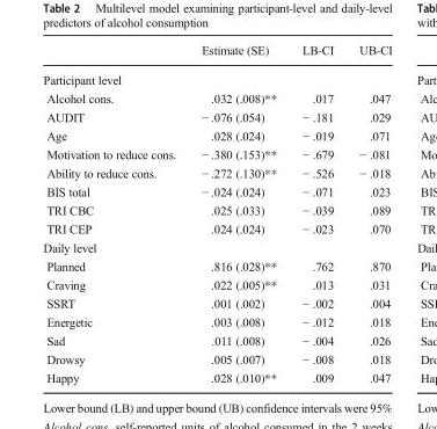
<table><thead><tr><td></td><td>Estimate (SE)</td><td>LB-CI</td><td>UB-CI</td></tr></thead><tbody><tr><td colspan="4">Participant level</td></tr><tr><td>Alcohol cons.</td><td>.032 (.008)**</td><td>.017</td><td>.047</td></tr><tr><td>AUDIT</td><td>− .076 (.054)</td><td>− .181</td><td>.029</td></tr><tr><td>Age</td><td>.028 (.024)</td><td>− .019</td><td>.071</td></tr><tr><td>Motivation to reduce cons.</td><td>− .380 (.153)**</td><td>− .679</td><td>− .081</td></tr><tr><td>Ability to reduce cons.</td><td>− .272 (.130)**</td><td>− .526</td><td>− .018</td></tr><tr><td>BIS total</td><td>− .024 (.024)</td><td>− .071</td><td>.023</td></tr><tr><td>TRI CBC</td><td>.025 (.033)</td><td>− .039</td><td>.089</td></tr><tr><td>TRI CEP</td><td>.024 (.024)</td><td>− .023</td><td>.070</td></tr><tr><td colspan="4">Daily level</td></tr><tr><td>Planned</td><td>.816 (.028)**</td><td>.762</td><td>.870</td></tr><tr><td>Craving</td><td>.022 (.005)**</td><td>.013</td><td>.031</td></tr><tr><td>SSRT</td><td>.001 (.002)</td><td>− .002</td><td>.004</td></tr><tr><td>Energetic</td><td>.003 (.008)</td><td>− .012</td><td>.018</td></tr><tr><td>Sad</td><td>.011 (.008)</td><td>− .004</td><td>.026</td></tr><tr><td>Drowsy</td><td>.005 (.007)</td><td>− .008</td><td>.018</td></tr><tr><td>Happy</td><td>.028 (.010)**</td><td>.009</td><td>.047</td></tr></tbody></table>